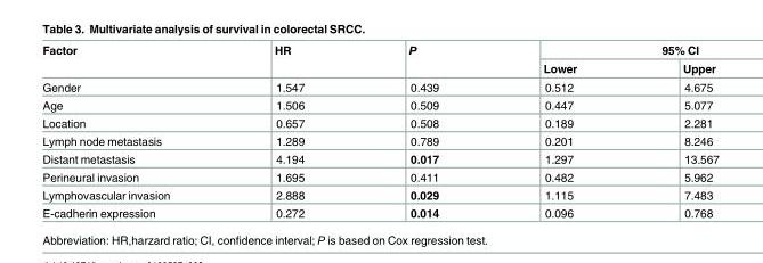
<table><thead><tr><td rowspan="2">Factor</td><td rowspan="2">HR</td><td rowspan="2">P</td><td colspan="2">95% CI</td></tr><tr><td>Lower</td><td>Upper</td></tr></thead><tbody><tr><td>Gender</td><td>1.547</td><td>0.439</td><td>0.512</td><td>4.675</td></tr><tr><td>Age</td><td>1.506</td><td>0.509</td><td>0.447</td><td>5.077</td></tr><tr><td>Location</td><td>0.657</td><td>0.508</td><td>0.189</td><td>2.281</td></tr><tr><td>Lymph node metastasis</td><td>1.289</td><td>0.789</td><td>0.201</td><td>8.246</td></tr><tr><td>Distant metastasis</td><td>4.194</td><td>0.017</td><td>1.297</td><td>13.567</td></tr><tr><td>Perineural invasion</td><td>1.695</td><td>0.411</td><td>0.482</td><td>5.962</td></tr><tr><td>Lymphovascular invasion</td><td>2.888</td><td>0.029</td><td>1.115</td><td>7.483</td></tr><tr><td>E-cadherin expression</td><td>0.272</td><td>0.014</td><td>0.096</td><td>0.768</td></tr></tbody></table>